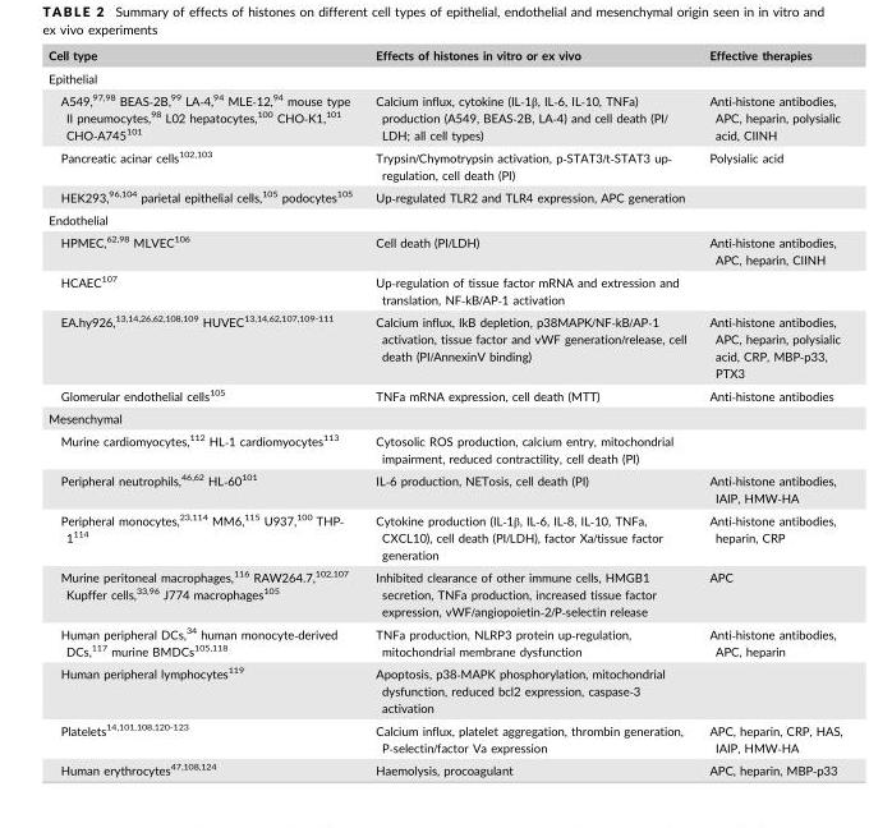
<table><thead><tr><td>Cell type</td><td>Effects of histones in vitro or ex vivo</td><td>Effective therapies</td></tr></thead><tbody><tr><td colspan="3">Epithelial</td></tr><tr><td>A549,<sup>97</sup>,<sup>98</sup> BEAS‐2B,<sup>99</sup> LA‐4,<sup>94</sup> MLE‐12,<sup>94</sup> mouse type II pneumocytes,<sup>98</sup> L02 hepatocytes,<sup>100</sup> CHO‐K1,<sup>101</sup> CHO‐A745<sup>101</sup></td><td>Calcium influx, cytokine (IL‐1β, IL‐6, IL‐10, TNFa) production (A549, BEAS‐2B, LA‐4) and cell death (PI/ LDH; all cell types)</td><td>Anti‐histone antibodies, APC, heparin, polysialic acid, CIINH</td></tr><tr><td>Pancreatic acinar cells<sup>102</sup>,<sup>103</sup></td><td>Trypsin/Chymotrypsin activation, p‐STAT3/t‐STAT3 up‐ regulation, cell death (PI)</td><td>Polysialic acid</td></tr><tr><td>HEK293,<sup>96</sup>,<sup>104</sup> parietal epithelial cells,<sup>105</sup> podocytes<sup>105</sup></td><td>Up‐regulated TLR2 and TLR4 expression, APC generation</td><td></td></tr><tr><td colspan="3">Endothelial</td></tr><tr><td>HPMEC,<sup>62</sup>,<sup>98</sup> MLVEC<sup>106</sup></td><td>Cell death (PI/LDH)</td><td>Anti‐histone antibodies, APC, heparin, CIINH</td></tr><tr><td>HCAEC<sup>107</sup></td><td>Up‐regulation of tissue factor mRNA and extression and translation, NF‐kB/AP‐1 activation</td><td></td></tr><tr><td>EA.hy926,13,14,26,62,108,109 HUVEC13,14,62,107,109-111</td><td>Calcium influx, IkB depletion, p38MAPK/NF‐kB/AP‐1 activation, tissue factor and vWF generation/release, cell death (PI/AnnexinV binding)</td><td>Anti‐histone antibodies, APC, heparin, polysialic acid, CRP, MBP‐p33, PTX3</td></tr><tr><td>Glomerular endothelial cells<sup>105</sup></td><td>TNFa mRNA expression, cell death (MTT)</td><td>Anti‐histone antibodies</td></tr><tr><td colspan="3">Mesenchymal</td></tr><tr><td>Murine cardiomyocytes,<sup>112</sup> HL‐1 cardiomyocytes<sup>113</sup></td><td>Cytosolic ROS production, calcium entry, mitochondrial impairment, reduced contractility, cell death (PI)</td><td></td></tr><tr><td>Peripheral neutrophils,<sup>46</sup>,<sup>62</sup> HL‐60<sup>101</sup></td><td>IL‐6 production, NETosis, cell death (PI)</td><td>Anti‐histone antibodies, IAIP, HMW‐HA</td></tr><tr><td>Peripheral monocytes,<sup>23</sup>,<sup>114</sup> MM6,<sup>115</sup> U937,<sup>100</sup> THP‐ 1<sup>114</sup></td><td>Cytokine production (IL‐1β, IL‐6, IL‐8, IL‐10, TNFa, CXCL10), cell death (PI/LDH), factor Xa/tissue factor generation</td><td>Anti‐histone antibodies, heparin, CRP</td></tr><tr><td>Murine peritoneal macrophages,<sup>116</sup> RAW264.7,<sup>102</sup>,<sup>107</sup> Kupffer cells,<sup>33</sup>,<sup>96</sup> J774 macrophages<sup>105</sup></td><td>Inhibited clearance of other immune cells, HMGB1 secretion, TNFa production, increased tissue factor expression, vWF/angiopoietin‐2/P‐selectin release</td><td>APC</td></tr><tr><td>Human peripheral DCs,<sup>34</sup> human monocyte‐derived DCs,<sup>117</sup> murine BMDCs<sup>105</sup>,<sup>118</sup></td><td>TNFa production, NLRP3 protein up‐regulation, mitochondrial membrane dysfunction</td><td>Anti‐histone antibodies, APC, heparin</td></tr><tr><td>Human peripheral lymphocytes<sup>119</sup></td><td>Apoptosis, p38‐MAPK phosphorylation, mitochondrial dysfunction, reduced bcl2 expression, caspase‐3 activation</td><td></td></tr><tr><td>Platelets14,101,108,120-123</td><td>Calcium influx, platelet aggregation, thrombin generation, P‐selectin/factor Va expression</td><td>APC, heparin, CRP, HAS, IAIP, HMW‐HA</td></tr><tr><td>Human erythrocytes<sup>47</sup>,<sup>108</sup>,<sup>124</sup></td><td>Haemolysis, procoagulant</td><td>APC, heparin, MBP‐p33</td></tr></tbody></table>